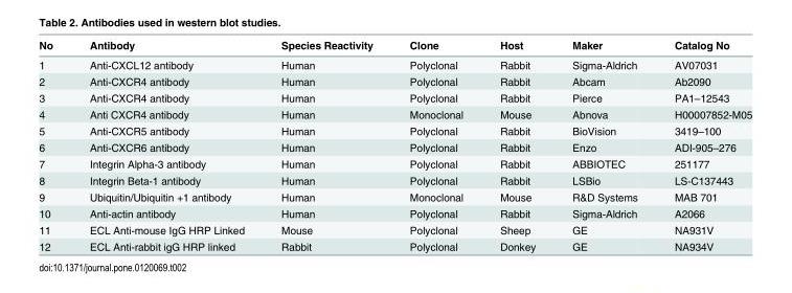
<table><thead><tr><td>No</td><td>Antibody</td><td>Species Reactivity</td><td>Clone</td><td>Host</td><td>Maker</td><td>Catalog No</td></tr></thead><tbody><tr><td>1</td><td>Anti-CXCL12 antibody</td><td>Human</td><td>Polyclonal</td><td>Rabbit</td><td>Sigma-Aldrich</td><td>AV07031</td></tr><tr><td>2</td><td>Anti-CXCR4 antibody</td><td>Human</td><td>Polyclonal</td><td>Rabbit</td><td>Abcam</td><td>Ab2090</td></tr><tr><td>3</td><td>Anti-CXCR4 antibody</td><td>Human</td><td>Polyclonal</td><td>Rabbit</td><td>Pierce</td><td>PA1–12543</td></tr><tr><td>4</td><td>Anti CXCR4 antibody</td><td>Human</td><td>Monoclonal</td><td>Mouse</td><td>Abnova</td><td>H00007852-M05</td></tr><tr><td>5</td><td>Anti-CXCR5 antibody</td><td>Human</td><td>Polyclonal</td><td>Rabbit</td><td>BioVision</td><td>3419–100</td></tr><tr><td>6</td><td>Anti-CXCR6 antibody</td><td>Human</td><td>Polyclonal</td><td>Rabbit</td><td>Enzo</td><td>ADI-905–276</td></tr><tr><td>7</td><td>Integrin Alpha-3 antibody</td><td>Human</td><td>Polyclonal</td><td>Rabbit</td><td>ABBIOTEC</td><td>251177</td></tr><tr><td>8</td><td>Integrin Beta-1 antibody</td><td>Human</td><td>Polyclonal</td><td>Rabbit</td><td>LSBio</td><td>LS-C137443</td></tr><tr><td>9</td><td>Ubiquitin/Ubiquitin +1 antibody</td><td>Human</td><td>Monoclonal</td><td>Mouse</td><td>R&amp;D Systems</td><td>MAB 701</td></tr><tr><td>10</td><td>Anti-actin antibody</td><td>Human</td><td>Polyclonal</td><td>Rabbit</td><td>Sigma-Aldrich</td><td>A2066</td></tr><tr><td>11</td><td>ECL Anti-mouse IgG HRP Linked</td><td>Mouse</td><td>Polyclonal</td><td>Sheep</td><td>GE</td><td>NA931V</td></tr><tr><td>12</td><td>ECL Anti-rabbit igG HRP linked</td><td>Rabbit</td><td>Polyclonal</td><td>Donkey</td><td>GE</td><td>NA934V</td></tr></tbody></table>